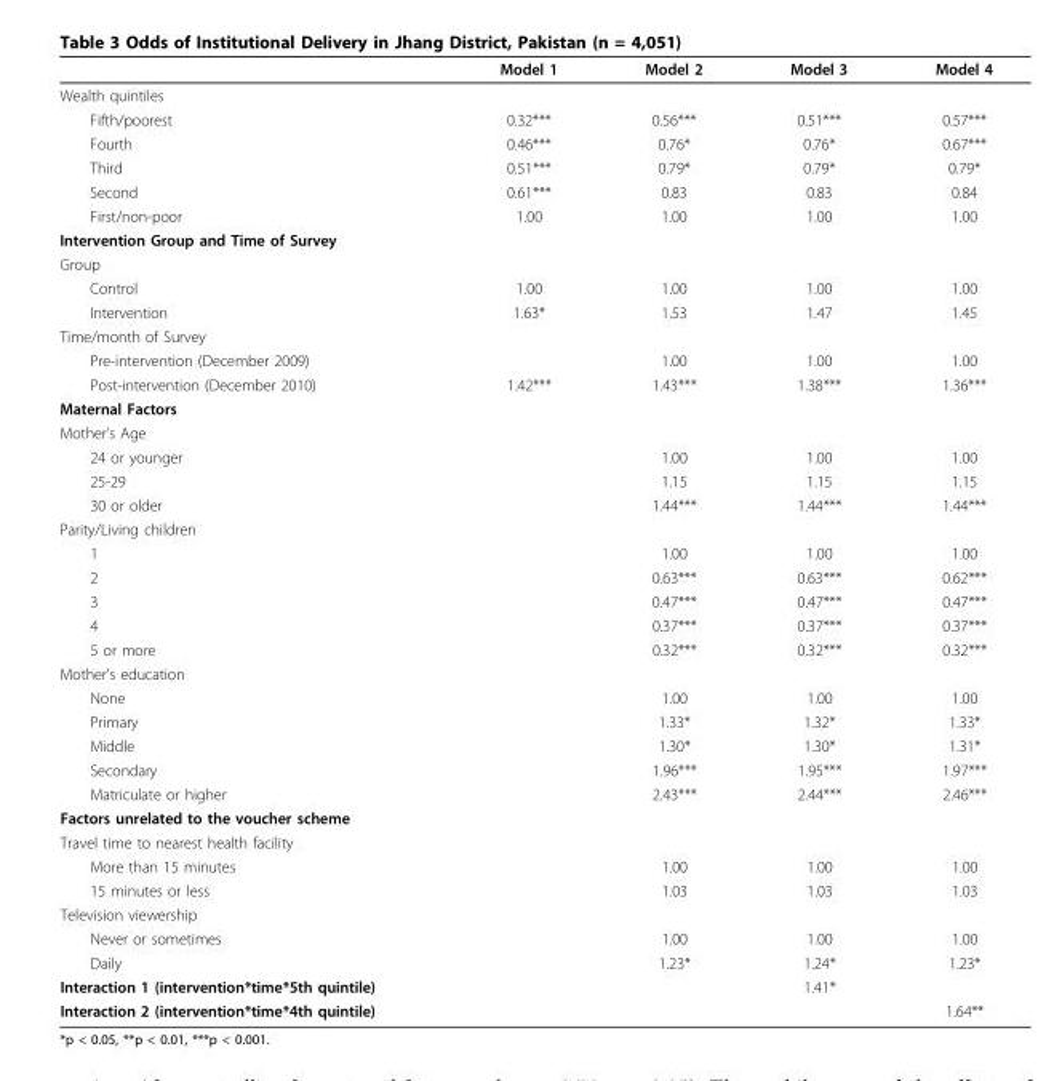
<table><thead><tr><td></td><td>Model 1</td><td>Model 2</td><td>Model 3</td><td>Model 4</td></tr></thead><tbody><tr><td colspan="5">Wealth quintiles</td></tr><tr><td>Fifth/poorest</td><td>0.32***</td><td>0.56***</td><td>0.51***</td><td>0.57***</td></tr><tr><td>Fourth</td><td>0.46***</td><td>0.76*</td><td>0.76*</td><td>0.67***</td></tr><tr><td>Third</td><td>0.51***</td><td>0.79*</td><td>0.79*</td><td>0.79*</td></tr><tr><td>Second</td><td>0.61***</td><td>0.83</td><td>0.83</td><td>0.84</td></tr><tr><td>First/non-poor</td><td>1.00</td><td>1.00</td><td>1.00</td><td>1.00</td></tr><tr><td colspan="5">Intervention Group and Time of Survey</td></tr><tr><td colspan="5">Group</td></tr><tr><td>Control</td><td>1.00</td><td>1.00</td><td>1.00</td><td>1.00</td></tr><tr><td>Intervention</td><td>1.63*</td><td>1.53</td><td>1.47</td><td>1.45</td></tr><tr><td colspan="5">Time/month of Survey</td></tr><tr><td>Pre-intervention (December 2009)</td><td></td><td>1.00</td><td>1.00</td><td>1.00</td></tr><tr><td>Post-intervention (December 2010)</td><td>1.42***</td><td>1.43***</td><td>1.38***</td><td>1.36***</td></tr><tr><td colspan="5">Maternal Factors</td></tr><tr><td colspan="5">Mother’s Age</td></tr><tr><td>24 or younger</td><td></td><td>1.00</td><td>1.00</td><td>1.00</td></tr><tr><td>25-29</td><td></td><td>1.15</td><td>1.15</td><td>1.15</td></tr><tr><td>30 or older</td><td></td><td>1.44***</td><td>1.44***</td><td>1.44***</td></tr><tr><td colspan="5">Parity/Living children</td></tr><tr><td>1</td><td></td><td>1.00</td><td>1.00</td><td>1.00</td></tr><tr><td>2</td><td></td><td>0.63***</td><td>0.63***</td><td>0.62***</td></tr><tr><td>3</td><td></td><td>0.47***</td><td>0.47***</td><td>0.47***</td></tr><tr><td>4</td><td></td><td>0.37***</td><td>0.37***</td><td>0.37***</td></tr><tr><td>5 or more</td><td></td><td>0.32***</td><td>0.32***</td><td>0.32***</td></tr><tr><td colspan="5">Mother’s education</td></tr><tr><td>None</td><td></td><td>1.00</td><td>1.00</td><td>1.00</td></tr><tr><td>Primary</td><td></td><td>1.33*</td><td>1.32*</td><td>1.33*</td></tr><tr><td>Middle</td><td></td><td>1.30*</td><td>1.30*</td><td>1.31*</td></tr><tr><td>Secondary</td><td></td><td>1.96***</td><td>1.95***</td><td>1.97***</td></tr><tr><td>Matriculate or higher</td><td></td><td>2.43***</td><td>2.44***</td><td>2.46***</td></tr><tr><td colspan="5">Factors unrelated to the voucher scheme</td></tr><tr><td colspan="5">Travel time to nearest health facility</td></tr><tr><td>More than 15 minutes</td><td></td><td>1.00</td><td>1.00</td><td>1.00</td></tr><tr><td>15 minutes or less</td><td></td><td>1.03</td><td>1.03</td><td>1.03</td></tr><tr><td colspan="5">Television viewership</td></tr><tr><td>Never or sometimes</td><td></td><td>1.00</td><td>1.00</td><td>1.00</td></tr><tr><td>Daily</td><td></td><td>1.23*</td><td>1.24*</td><td>1.23*</td></tr><tr><td>Interaction 1 (intervention*time*5th quintile)</td><td></td><td></td><td>1.41*</td><td></td></tr><tr><td>Interaction 2 (intervention*time*4th quintile)</td><td></td><td></td><td></td><td>1.64**</td></tr></tbody></table>